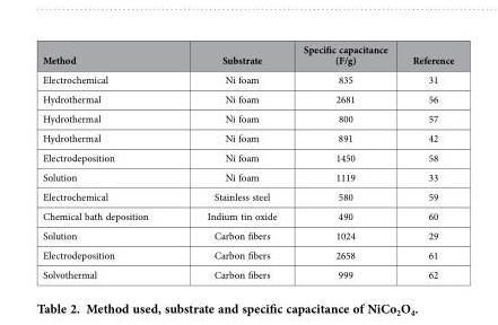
<table><thead><tr><td>Method</td><td>Substrate</td><td>Specific capacitance (F/g)</td><td>Reference</td></tr></thead><tbody><tr><td>Electrochemical</td><td>Ni foam</td><td>835</td><td>31</td></tr><tr><td>Hydrothermal</td><td>Ni foam</td><td>2681</td><td>56</td></tr><tr><td>Hydrothermal</td><td>Ni foam</td><td>800</td><td>57</td></tr><tr><td>Hydrothermal</td><td>Ni foam</td><td>891</td><td>42</td></tr><tr><td>Electrodeposition</td><td>Ni foam</td><td>1450</td><td>58</td></tr><tr><td>Solution</td><td>Ni foam</td><td>1119</td><td>33</td></tr><tr><td>Electrochemical</td><td>Stainless steel</td><td>580</td><td>59</td></tr><tr><td>Chemical bath deposition</td><td>Indium tin oxide</td><td>490</td><td>60</td></tr><tr><td>Solution</td><td>Carbon fibers</td><td>1024</td><td>29</td></tr><tr><td>Electrodeposition</td><td>Carbon fibers</td><td>2658</td><td>61</td></tr><tr><td>Solvothermal</td><td>Carbon fibers</td><td>999</td><td>62</td></tr></tbody></table>